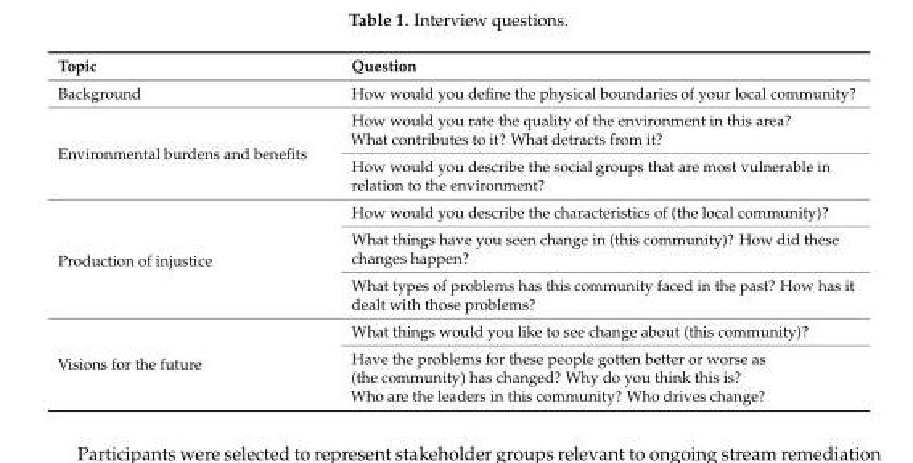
<table><thead><tr><td>Topic</td><td>Question</td></tr></thead><tbody><tr><td>Background</td><td>How would you define the physical boundaries of your local community?</td></tr><tr><td rowspan="2">Environmental burdens and benefits</td><td>How would you rate the quality of the environment in this area? What contributes to it? What detracts from it?</td></tr><tr><td>How would you describe the social groups that are most vulnerable in relation to the environment?</td></tr><tr><td rowspan="3">Production of injustice</td><td>How would you describe the characteristics of (the local community)?</td></tr><tr><td>What things have you seen change in (this community)? How did these changes happen?</td></tr><tr><td>What types of problems has this community faced in the past? How has it dealt with those problems?</td></tr><tr><td rowspan="2">Visions for the future</td><td>What things would you like to see change about (this community)?</td></tr><tr><td>Have the problems for these people gotten better or worse as (the community) has changed? Why do you think this is? Who are the leaders in this community? Who drives change?</td></tr></tbody></table>